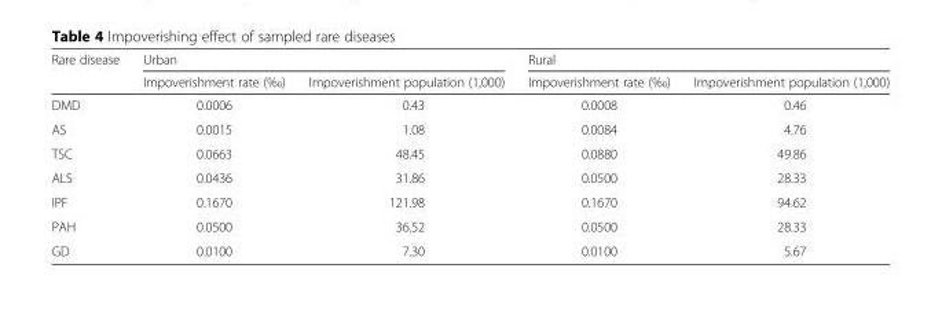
<table><thead><tr><td rowspan="2">Rare disease</td><td colspan="2">Urban</td><td colspan="2">Rural</td></tr><tr><td>Impoverishment rate (‰)</td><td>Impoverishment population (1,000)</td><td>Impoverishment rate (‰)</td><td>Impoverishment population (1,000)</td></tr></thead><tbody><tr><td>DMD</td><td>0.0006</td><td>0.43</td><td>0.0008</td><td>0.46</td></tr><tr><td>AS</td><td>0.0015</td><td>1.08</td><td>0.0084</td><td>4.76</td></tr><tr><td>TSC</td><td>0.0663</td><td>48.45</td><td>0.0880</td><td>49.86</td></tr><tr><td>ALS</td><td>0.0436</td><td>31.86</td><td>0.0500</td><td>28.33</td></tr><tr><td>IPF</td><td>0.1670</td><td>121.98</td><td>0.1670</td><td>94.62</td></tr><tr><td>PAH</td><td>0.0500</td><td>36.52</td><td>0.0500</td><td>28.33</td></tr><tr><td>GD</td><td>0.0100</td><td>7.30</td><td>0.0100</td><td>5.67</td></tr></tbody></table>